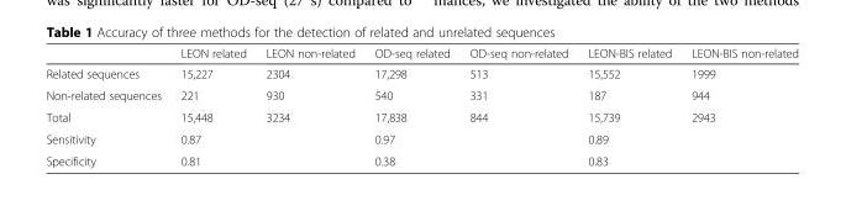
<table><thead><tr><td></td><td>LEON related</td><td>LEON non-related</td><td>OD-seq related</td><td>OD-seq non-related</td><td>LEON-BIS related</td><td>LEON-BIS non-related</td></tr></thead><tbody><tr><td>Related sequences</td><td>15,227</td><td>2304</td><td>17,298</td><td>513</td><td>15,552</td><td>1999</td></tr><tr><td>Non-related sequences</td><td>221</td><td>930</td><td>540</td><td>331</td><td>187</td><td>944</td></tr><tr><td>Total</td><td>15,448</td><td>3234</td><td>17,838</td><td>844</td><td>15,739</td><td>2943</td></tr><tr><td>Sensitivity</td><td colspan="2">0.87</td><td colspan="2">0.97</td><td colspan="2">0.89</td></tr><tr><td>Specificity</td><td colspan="2">0.81</td><td colspan="2">0.38</td><td colspan="2">0.83</td></tr></tbody></table>